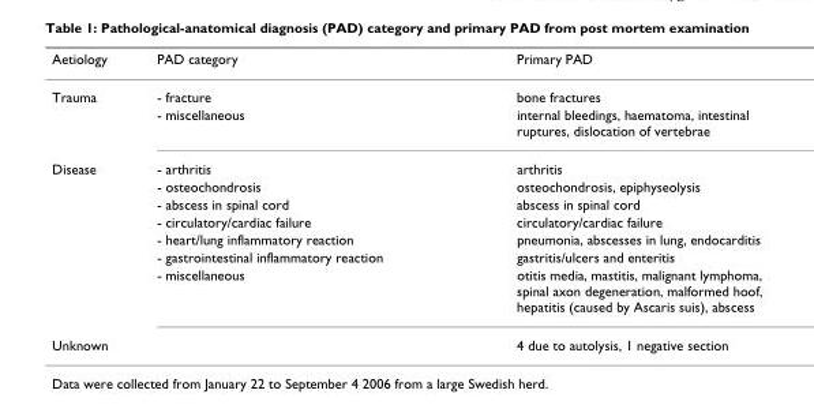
<table><thead><tr><td>Aetiology</td><td>PAD category</td><td>Primary PAD</td></tr></thead><tbody><tr><td rowspan="2">Trauma</td><td>- fracture</td><td>bone fractures</td></tr><tr><td>- miscellaneous</td><td>internal bleedings, haematoma, intestinal ruptures, dislocation of vertebrae</td></tr><tr><td rowspan="7">Disease</td><td>- arthritis</td><td>arthritis</td></tr><tr><td>- osteochondrosis</td><td>osteochondrosis, epiphyseolysis</td></tr><tr><td>- abscess in spinal cord</td><td>abscess in spinal cord</td></tr><tr><td>- circulatory/cardiac failure</td><td>circulatory/cardiac failure</td></tr><tr><td>- heart/lung inflammatory reaction</td><td>pneumonia, abscesses in lung, endocarditis</td></tr><tr><td>- gastrointestinal inflammatory reaction</td><td>gastritis/ulcers and enteritis</td></tr><tr><td>- miscellaneous</td><td>otitis media, mastitis, malignant lymphoma, spinal axon degeneration, malformed hoof, hepatitis (caused by Ascaris suis), abscess</td></tr><tr><td>Unknown</td><td></td><td>4 due to autolysis, 1 negative section</td></tr></tbody></table>